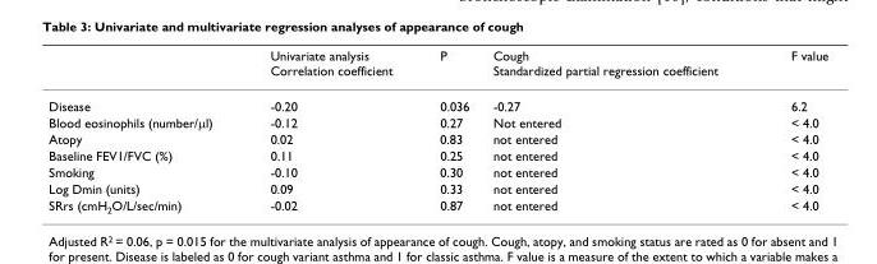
<table><thead><tr><td></td><td>Univariate analysis Correlation coefficient</td><td>P</td><td>Cough Standardized partial regression coefficient</td><td>F value</td></tr></thead><tbody><tr><td>Disease</td><td>-0.20</td><td>0.036</td><td>-0.27</td><td>6.2</td></tr><tr><td>Blood eosinophils (number/μl)</td><td>-0.12</td><td>0.27</td><td>Not entered</td><td>&lt; 4.0</td></tr><tr><td>Atopy</td><td>0.02</td><td>0.83</td><td>not entered</td><td>&lt; 4.0</td></tr><tr><td>Baseline FEV1/FVC (%)</td><td>0.11</td><td>0.25</td><td>not entered</td><td>&lt; 4.0</td></tr><tr><td>Smoking</td><td>-0.10</td><td>0.30</td><td>not entered</td><td>&lt; 4.0</td></tr><tr><td>Log Dmin (units)</td><td>0.09</td><td>0.33</td><td>not entered</td><td>&lt; 4.0</td></tr><tr><td>SRrs (cmH<sub>2</sub>O/L/sec/min)</td><td>-0.02</td><td>0.87</td><td>not entered</td><td>&lt; 4.0</td></tr></tbody></table>